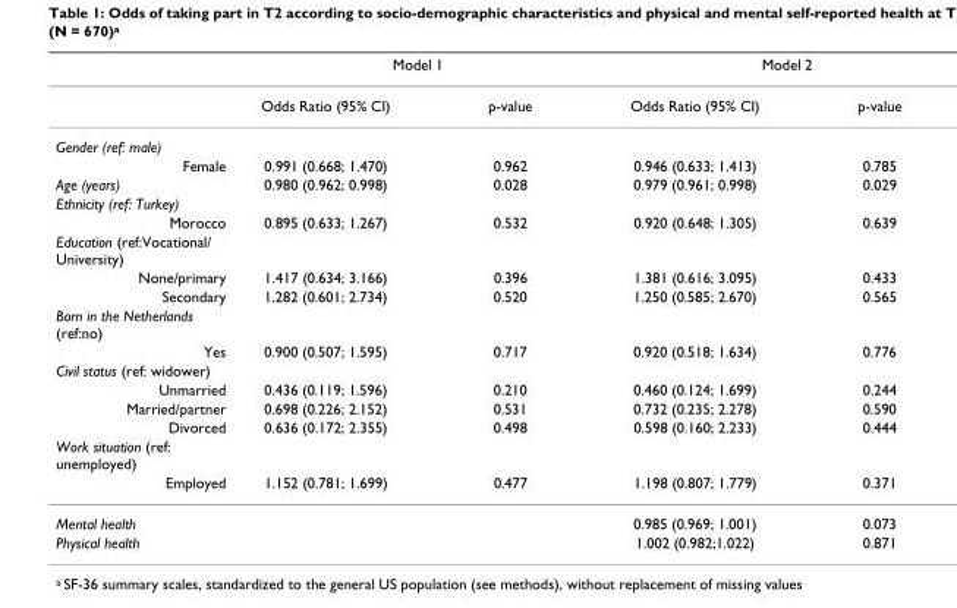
<table><thead><tr><td rowspan="2"></td><td colspan="2">Model 1</td><td colspan="2">Model 2</td></tr><tr><td>Odds Ratio (95% CI)</td><td>p-value</td><td>Odds Ratio (95% CI)</td><td>p-value</td></tr></thead><tbody><tr><td colspan="5">Gender (ref: male)</td></tr><tr><td>Female</td><td>0.991 (0.668; 1.470)</td><td>0.962</td><td>0.946 (0.633; 1.413)</td><td>0.785</td></tr><tr><td>Age (years)</td><td>0.980 (0.962; 0.998)</td><td>0.028</td><td>0.979 (0.961; 0.998)</td><td>0.029</td></tr><tr><td colspan="5">Ethnicity (ref: Turkey)</td></tr><tr><td>Morocco</td><td>0.895 (0.633; 1.267)</td><td>0.532</td><td>0.920 (0.648; 1.305)</td><td>0.639</td></tr><tr><td colspan="5">Education (ref:Vocational/ University)</td></tr><tr><td>None/primary</td><td>1.417 (0.634; 3.166)</td><td>0.396</td><td>1.381 (0.616; 3.095)</td><td>0.433</td></tr><tr><td>Secondary</td><td>1.282 (0.601; 2.734)</td><td>0.520</td><td>1.250 (0.585; 2.670)</td><td>0.565</td></tr><tr><td colspan="5">Born in the Netherlands (ref:no)</td></tr><tr><td>Yes</td><td>0.900 (0.507; 1.595)</td><td>0.717</td><td>0.920 (0.518; 1.634)</td><td>0.776</td></tr><tr><td colspan="5">Civil status (ref: widower)</td></tr><tr><td>Unmarried</td><td>0.436 (0.119; 1.596)</td><td>0.210</td><td>0.460 (0.124; 1.699)</td><td>0.244</td></tr><tr><td>Married/partner</td><td>0.698 (0.226; 2.152)</td><td>0.531</td><td>0.732 (0.235; 2.278)</td><td>0.590</td></tr><tr><td>Divorced</td><td>0.636 (0.172; 2.355)</td><td>0.498</td><td>0.598 (0.160; 2.233)</td><td>0.444</td></tr><tr><td colspan="5">Work situation (ref: unemployed)</td></tr><tr><td>Employed</td><td>1.152 (0.781; 1.699)</td><td>0.477</td><td>1.198 (0.807; 1.779)</td><td>0.371</td></tr><tr><td>Mental health</td><td></td><td></td><td>0.985 (0.969; 1.001)</td><td>0.073</td></tr><tr><td>Physical health</td><td></td><td></td><td>1.002 (0.982;1.022)</td><td>0.871</td></tr></tbody></table>